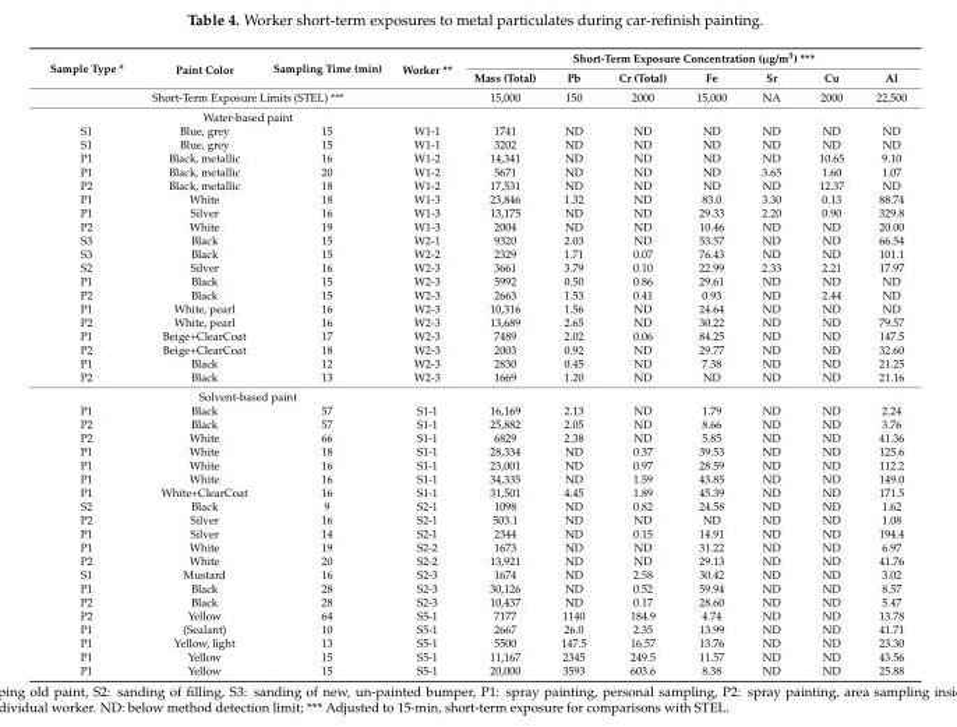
<table><thead><tr><td rowspan="2">Sample Type *</td><td rowspan="2">Paint Color</td><td rowspan="2">Sampling Time (min)</td><td rowspan="2">Worker **</td><td colspan="7">Short-Term Exposure Concentration (µg/m<sup>3</sup>) ***</td></tr><tr><td>Mass (Total)</td><td>Pb</td><td>Cr (Total)</td><td>Fe</td><td>Sr</td><td>Cu</td><td>Al</td></tr></thead><tbody><tr><td colspan="4">Short-Term Exposure Limits (STEL) ***</td><td>15,000</td><td>150</td><td>2000</td><td>15,000</td><td>NA</td><td>2000</td><td>22,500</td></tr><tr><td colspan="11">Water-based paint</td></tr><tr><td>S1</td><td>Blue, grey</td><td>15</td><td>W1-1</td><td>1741</td><td>ND</td><td>ND</td><td>ND</td><td>ND</td><td>ND</td><td>ND</td></tr><tr><td>S1</td><td>Blue, grey</td><td>15</td><td>W1-1</td><td>3202</td><td>ND</td><td>ND</td><td>ND</td><td>ND</td><td>ND</td><td>ND</td></tr><tr><td>P1</td><td>Black, metallic</td><td>16</td><td>W1-2</td><td>14,341</td><td>ND</td><td>ND</td><td>ND</td><td>ND</td><td>10.65</td><td>9.10</td></tr><tr><td>P1</td><td>Black, metallic</td><td>20</td><td>W1-2</td><td>5671</td><td>ND</td><td>ND</td><td>ND</td><td>3.65</td><td>1.60</td><td>1.07</td></tr><tr><td>P2</td><td>Black, metallic</td><td>18</td><td>W1-2</td><td>17,531</td><td>ND</td><td>ND</td><td>ND</td><td>ND</td><td>12.37</td><td>ND</td></tr><tr><td>P1</td><td>White</td><td>18</td><td>W1-3</td><td>23,846</td><td>1.32</td><td>ND</td><td>83.0</td><td>3.30</td><td>0.13</td><td>88.74</td></tr><tr><td>P1</td><td>Silver</td><td>16</td><td>W1-3</td><td>13,175</td><td>ND</td><td>ND</td><td>29.33</td><td>2.20</td><td>0.90</td><td>329.8</td></tr><tr><td>P2</td><td>White</td><td>19</td><td>W1-3</td><td>2004</td><td>ND</td><td>ND</td><td>10.46</td><td>ND</td><td>ND</td><td>20.00</td></tr><tr><td>S3</td><td>Black</td><td>15</td><td>W2-1</td><td>9320</td><td>2.03</td><td>ND</td><td>53.57</td><td>ND</td><td>ND</td><td>66.54</td></tr><tr><td>S3</td><td>Black</td><td>15</td><td>W2-2</td><td>2329</td><td>1.71</td><td>0.07</td><td>76.43</td><td>ND</td><td>ND</td><td>101.1</td></tr><tr><td>S2</td><td>Silver</td><td>16</td><td>W2-3</td><td>3661</td><td>3.79</td><td>0.10</td><td>22.99</td><td>2.33</td><td>2.21</td><td>17.97</td></tr><tr><td>P1</td><td>Black</td><td>15</td><td>W2-3</td><td>5992</td><td>0.50</td><td>0.86</td><td>29.61</td><td>ND</td><td>ND</td><td>ND</td></tr><tr><td>P2</td><td>Black</td><td>15</td><td>W2-3</td><td>2663</td><td>1.53</td><td>0.41</td><td>0.93</td><td>ND</td><td>2.44</td><td>ND</td></tr><tr><td>P1</td><td>White, pearl</td><td>16</td><td>W2-3</td><td>10,316</td><td>1.56</td><td>ND</td><td>24.64</td><td>ND</td><td>ND</td><td>ND</td></tr><tr><td>P2</td><td>White, pearl</td><td>16</td><td>W2-3</td><td>13,689</td><td>2.65</td><td>ND</td><td>30.22</td><td>ND</td><td>ND</td><td>79.57</td></tr><tr><td>P1</td><td>Beige+ClearCoat</td><td>17</td><td>W2-3</td><td>7489</td><td>2.02</td><td>0.06</td><td>84.25</td><td>ND</td><td>ND</td><td>147.5</td></tr><tr><td>P2</td><td>Beige+ClearCoat</td><td>18</td><td>W2-3</td><td>2003</td><td>0.92</td><td>ND</td><td>29.77</td><td>ND</td><td>ND</td><td>32.60</td></tr><tr><td>P1</td><td>Black</td><td>12</td><td>W2-3</td><td>2830</td><td>0.45</td><td>ND</td><td>7.38</td><td>ND</td><td>ND</td><td>21.25</td></tr><tr><td>P2</td><td>Black</td><td>13</td><td>W2-3</td><td>1669</td><td>1.20</td><td>ND</td><td>ND</td><td>ND</td><td>ND</td><td>21.16</td></tr><tr><td colspan="11">Solvent-based paint</td></tr><tr><td>P1</td><td>Black</td><td>57</td><td>S1-1</td><td>16,169</td><td>2.13</td><td>ND</td><td>1.79</td><td>ND</td><td>ND</td><td>2.24</td></tr><tr><td>P2</td><td>Black</td><td>57</td><td>S1-1</td><td>25,882</td><td>2.05</td><td>ND</td><td>8.66</td><td>ND</td><td>ND</td><td>3.76</td></tr><tr><td>P2</td><td>White</td><td>66</td><td>S1-1</td><td>6829</td><td>2.38</td><td>ND</td><td>5.85</td><td>ND</td><td>ND</td><td>41.36</td></tr><tr><td>P1</td><td>White</td><td>18</td><td>S1-1</td><td>28,334</td><td>ND</td><td>0.37</td><td>39.53</td><td>ND</td><td>ND</td><td>125.6</td></tr><tr><td>P1</td><td>White</td><td>16</td><td>S1-1</td><td>23,001</td><td>ND</td><td>0.97</td><td>28.59</td><td>ND</td><td>ND</td><td>112.2</td></tr><tr><td>P1</td><td>White</td><td>16</td><td>S1-1</td><td>34,335</td><td>ND</td><td>1.59</td><td>43.85</td><td>ND</td><td>ND</td><td>149.0</td></tr><tr><td>P1</td><td>White+ClearCoat</td><td>16</td><td>S1-1</td><td>31,501</td><td>4.45</td><td>1.89</td><td>45.39</td><td>ND</td><td>ND</td><td>171.5</td></tr><tr><td>S2</td><td>Black</td><td>9</td><td>S2-1</td><td>1098</td><td>ND</td><td>0.82</td><td>24.58</td><td>ND</td><td>ND</td><td>1.62</td></tr><tr><td>P2</td><td>Silver</td><td>16</td><td>S2-1</td><td>503.1</td><td>ND</td><td>ND</td><td>ND</td><td>ND</td><td>ND</td><td>1.08</td></tr><tr><td>P1</td><td>Silver</td><td>14</td><td>S2-1</td><td>2344</td><td>ND</td><td>0.15</td><td>14.91</td><td>ND</td><td>ND</td><td>194.4</td></tr><tr><td>P1</td><td>White</td><td>19</td><td>S2-2</td><td>1673</td><td>ND</td><td>ND</td><td>31.22</td><td>ND</td><td>ND</td><td>6.97</td></tr><tr><td>P2</td><td>White</td><td>20</td><td>S2-2</td><td>13,921</td><td>ND</td><td>ND</td><td>29.13</td><td>ND</td><td>ND</td><td>41.76</td></tr><tr><td>S1</td><td>Mustard</td><td>16</td><td>S2-3</td><td>1674</td><td>ND</td><td>2.58</td><td>30.42</td><td>ND</td><td>ND</td><td>3.02</td></tr><tr><td>P1</td><td>Black</td><td>28</td><td>S2-3</td><td>30,126</td><td>ND</td><td>0.52</td><td>59.94</td><td>ND</td><td>ND</td><td>8.57</td></tr><tr><td>P2</td><td>Black</td><td>28</td><td>S2-3</td><td>10,437</td><td>ND</td><td>0.17</td><td>28.60</td><td>ND</td><td>ND</td><td>5.47</td></tr><tr><td>P2</td><td>Yellow</td><td>64</td><td>S5-1</td><td>7177</td><td>1140</td><td>184.9</td><td>4.74</td><td>ND</td><td>ND</td><td>13.78</td></tr><tr><td>P1</td><td>(Sealant)</td><td>10</td><td>S5-1</td><td>2667</td><td>26.0</td><td>2.35</td><td>13.99</td><td>ND</td><td>ND</td><td>41.71</td></tr><tr><td>P1</td><td>Yellow, light</td><td>13</td><td>S5-1</td><td>5500</td><td>147.5</td><td>16.57</td><td>13.76</td><td>ND</td><td>ND</td><td>23.30</td></tr><tr><td>P1</td><td>Yellow</td><td>15</td><td>S5-1</td><td>11,167</td><td>2345</td><td>249.5</td><td>11.57</td><td>ND</td><td>ND</td><td>43.56</td></tr><tr><td>P1</td><td>Yellow</td><td>15</td><td>S5-1</td><td>20,000</td><td>3593</td><td>603.6</td><td>8.38</td><td>ND</td><td>ND</td><td>25.88</td></tr></tbody></table>